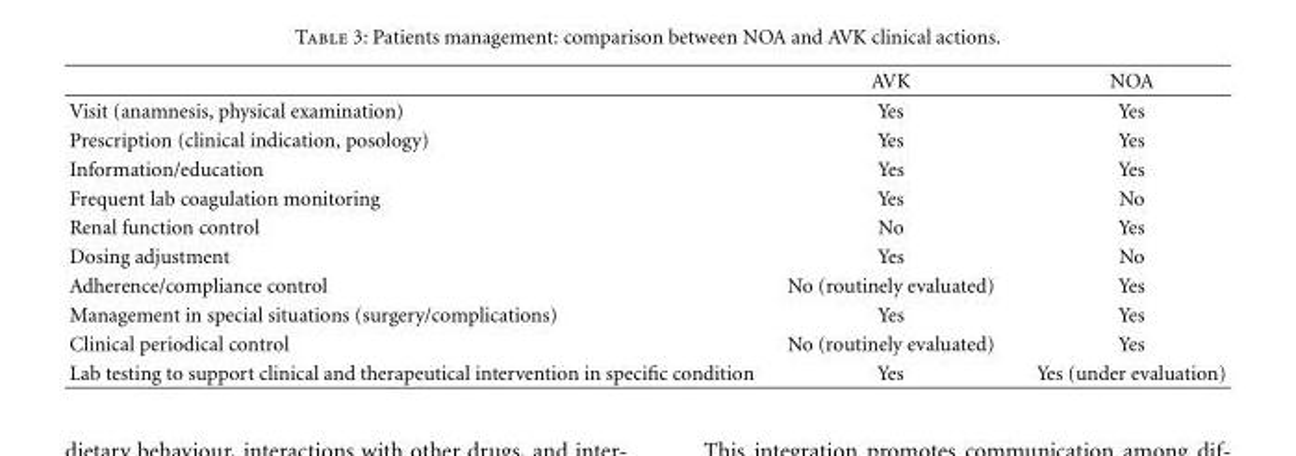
<table><thead><tr><td></td><td>AVK</td><td>NOA</td></tr></thead><tbody><tr><td>Visit (anamnesis, physical examination)</td><td>Yes</td><td>Yes</td></tr><tr><td>Prescription (clinical indication, posology)</td><td>Yes</td><td>Yes</td></tr><tr><td>Information/education</td><td>Yes</td><td>Yes</td></tr><tr><td>Frequent lab coagulation monitoring</td><td>Yes</td><td>No</td></tr><tr><td>Renal function control</td><td>No</td><td>Yes</td></tr><tr><td>Dosing adjustment</td><td>Yes</td><td>No</td></tr><tr><td>Adherence/compliance control</td><td>No (routinely evaluated)</td><td>Yes</td></tr><tr><td>Management in special situations (surgery/complications)</td><td>Yes</td><td>Yes</td></tr><tr><td>Clinical periodical control</td><td>No (routinely evaluated)</td><td>Yes</td></tr><tr><td>Lab testing to support clinical and therapeutical intervention in specific condition</td><td>Yes</td><td>Yes (under evaluation)</td></tr></tbody></table>